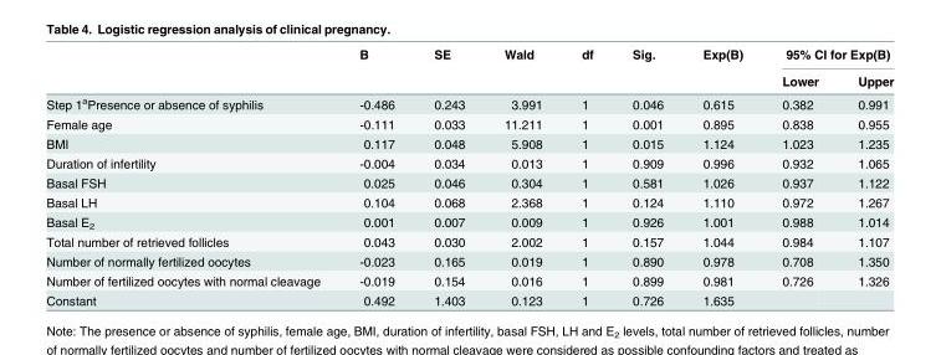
<table><thead><tr><td rowspan="2"></td><td rowspan="2">B</td><td rowspan="2">SE</td><td rowspan="2">Wald</td><td rowspan="2">df</td><td rowspan="2">Sig.</td><td rowspan="2">Exp(B)</td><td colspan="2">95% CI for Exp(B)</td></tr><tr><td>Lower</td><td>Upper</td></tr></thead><tbody><tr><td>Step 1<sup>a</sup>Presence or absence of syphilis</td><td>-0.486</td><td>0.243</td><td>3.991</td><td>1</td><td>0.046</td><td>0.615</td><td>0.382</td><td>0.991</td></tr><tr><td>Female age</td><td>-0.111</td><td>0.033</td><td>11.211</td><td>1</td><td>0.001</td><td>0.895</td><td>0.838</td><td>0.955</td></tr><tr><td>BMI</td><td>0.117</td><td>0.048</td><td>5.908</td><td>1</td><td>0.015</td><td>1.124</td><td>1.023</td><td>1.235</td></tr><tr><td>Duration of infertility</td><td>-0.004</td><td>0.034</td><td>0.013</td><td>1</td><td>0.909</td><td>0.996</td><td>0.932</td><td>1.065</td></tr><tr><td>Basal FSH</td><td>0.025</td><td>0.046</td><td>0.304</td><td>1</td><td>0.581</td><td>1.026</td><td>0.937</td><td>1.122</td></tr><tr><td>Basal LH</td><td>0.104</td><td>0.068</td><td>2.368</td><td>1</td><td>0.124</td><td>1.110</td><td>0.972</td><td>1.267</td></tr><tr><td>Basal E<sub>2</sub></td><td>0.001</td><td>0.007</td><td>0.009</td><td>1</td><td>0.926</td><td>1.001</td><td>0.988</td><td>1.014</td></tr><tr><td>Total number of retrieved follicles</td><td>0.043</td><td>0.030</td><td>2.002</td><td>1</td><td>0.157</td><td>1.044</td><td>0.984</td><td>1.107</td></tr><tr><td>Number of normally fertilized oocytes</td><td>-0.023</td><td>0.165</td><td>0.019</td><td>1</td><td>0.890</td><td>0.978</td><td>0.708</td><td>1.350</td></tr><tr><td>Number of fertilized oocytes with normal cleavage</td><td>-0.019</td><td>0.154</td><td>0.016</td><td>1</td><td>0.899</td><td>0.981</td><td>0.726</td><td>1.326</td></tr><tr><td>Constant</td><td>0.492</td><td>1.403</td><td>0.123</td><td>1</td><td>0.726</td><td>1.635</td><td></td><td></td></tr></tbody></table>